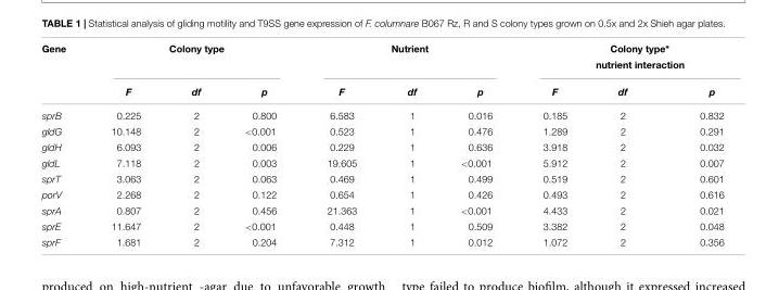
<table><thead><tr><td rowspan="2">Gene</td><td colspan="3">Colony type</td><td colspan="3">Nutrient</td><td colspan="3">Colony type∗ nutrient interaction</td></tr><tr><td>F</td><td>df</td><td>p</td><td>F</td><td>df</td><td>p</td><td>F</td><td>df</td><td>p</td></tr></thead><tbody><tr><td>sprB</td><td>0.225</td><td>2</td><td>0.800</td><td>6.583</td><td>1</td><td>0.016</td><td>0.185</td><td>2</td><td>0.832</td></tr><tr><td>gldG</td><td>10.148</td><td>2</td><td>&lt;0.001</td><td>0.523</td><td>1</td><td>0.476</td><td>1.289</td><td>2</td><td>0.291</td></tr><tr><td>gldH</td><td>6.093</td><td>2</td><td>0.006</td><td>0.229</td><td>1</td><td>0.636</td><td>3.918</td><td>2</td><td>0.032</td></tr><tr><td>gldL</td><td>7.118</td><td>2</td><td>0.003</td><td>19.605</td><td>1</td><td>&lt;0.001</td><td>5.912</td><td>2</td><td>0.007</td></tr><tr><td>sprT</td><td>3.063</td><td>2</td><td>0.063</td><td>0.469</td><td>1</td><td>0.499</td><td>0.519</td><td>2</td><td>0.601</td></tr><tr><td>porV</td><td>2.268</td><td>2</td><td>0.122</td><td>0.654</td><td>1</td><td>0.426</td><td>0.493</td><td>2</td><td>0.616</td></tr><tr><td>sprA</td><td>0.807</td><td>2</td><td>0.456</td><td>21.363</td><td>1</td><td>&lt;0.001</td><td>4.433</td><td>2</td><td>0.021</td></tr><tr><td>sprE</td><td>11.647</td><td>2</td><td>&lt;0.001</td><td>0.448</td><td>1</td><td>0.509</td><td>3.382</td><td>2</td><td>0.048</td></tr><tr><td>sprF</td><td>1.681</td><td>2</td><td>0.204</td><td>7.312</td><td>1</td><td>0.012</td><td>1.072</td><td>2</td><td>0.356</td></tr></tbody></table>